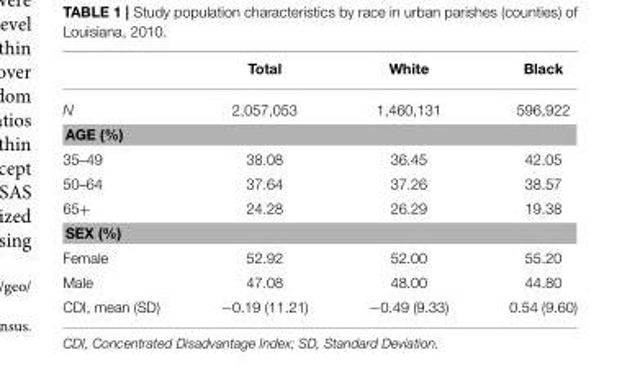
<table><thead><tr><td></td><td>Total</td><td>White</td><td>Black</td></tr></thead><tbody><tr><td>N</td><td>2,057,053</td><td>1,460,131</td><td>596,922</td></tr><tr><td colspan="4">AGE (%)</td></tr><tr><td>35–49</td><td>38.08</td><td>36.45</td><td>42.05</td></tr><tr><td>50–64</td><td>37.64</td><td>37.26</td><td>38.57</td></tr><tr><td>65+</td><td>24.28</td><td>26.29</td><td>19.38</td></tr><tr><td colspan="4">SEX (%)</td></tr><tr><td>Female</td><td>52.92</td><td>52.00</td><td>55.20</td></tr><tr><td>Male</td><td>47.08</td><td>48.00</td><td>44.80</td></tr><tr><td>CDI, mean (SD)</td><td>−0.19 (11.21)</td><td>−0.49 (9.33)</td><td>0.54 (9.60)</td></tr></tbody></table>